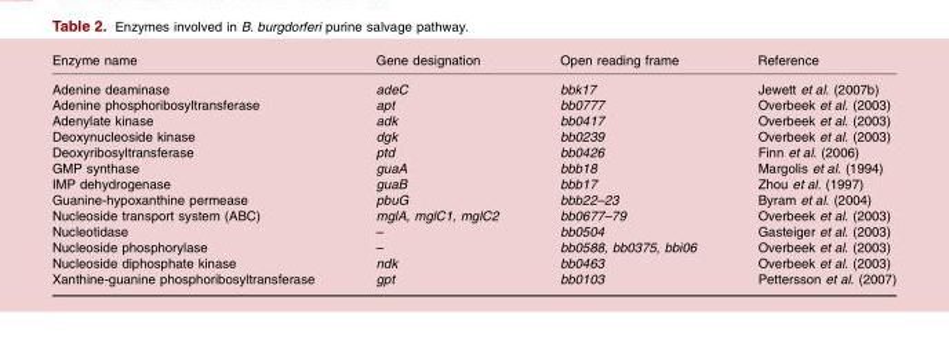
<table><thead><tr><td>Enzyme name</td><td>Gene designation</td><td>Open reading frame</td><td>Reference</td></tr></thead><tbody><tr><td>Adenine deaminase</td><td>adeC</td><td>bbk17</td><td>Jewett et al. (2007b)</td></tr><tr><td>Adenine phosphoribosyltransferase</td><td>apt</td><td>bb0777</td><td>Overbeek et al. (2003)</td></tr><tr><td>Adenylate kinase</td><td>adk</td><td>bb0417</td><td>Overbeek et al. (2003)</td></tr><tr><td>Deoxynucleoside kinase</td><td>dgk</td><td>bb0239</td><td>Overbeek et al. (2003)</td></tr><tr><td>Deoxyribosyltransferase</td><td>ptd</td><td>bb0426</td><td>Finn et al. (2006)</td></tr><tr><td>GMP synthase</td><td>guaA</td><td>bbb18</td><td>Margolis et al. (1994)</td></tr><tr><td>IMP dehydrogenase</td><td>guaB</td><td>bbb17</td><td>Zhou et al. (1997)</td></tr><tr><td>Guanine-hypoxanthine permease</td><td>pbuG</td><td>bbb22–23</td><td>Byram et al. (2004)</td></tr><tr><td>Nucleoside transport system (ABC)</td><td>mglA, mglC1, mglC2</td><td>bb0677–79</td><td>Overbeek et al. (2003)</td></tr><tr><td>Nucleotidase</td><td>–</td><td>bb0504</td><td>Gasteiger et al. (2003)</td></tr><tr><td>Nucleoside phosphorylase</td><td>–</td><td>bb0588, bb0375, bbi06</td><td>Overbeek et al. (2003)</td></tr><tr><td>Nucleoside diphosphate kinase</td><td>ndk</td><td>bb0463</td><td>Overbeek et al. (2003)</td></tr><tr><td>Xanthine-guanine phosphoribosyltransferase</td><td>gpt</td><td>bb0103</td><td>Pettersson et al. (2007)</td></tr></tbody></table>